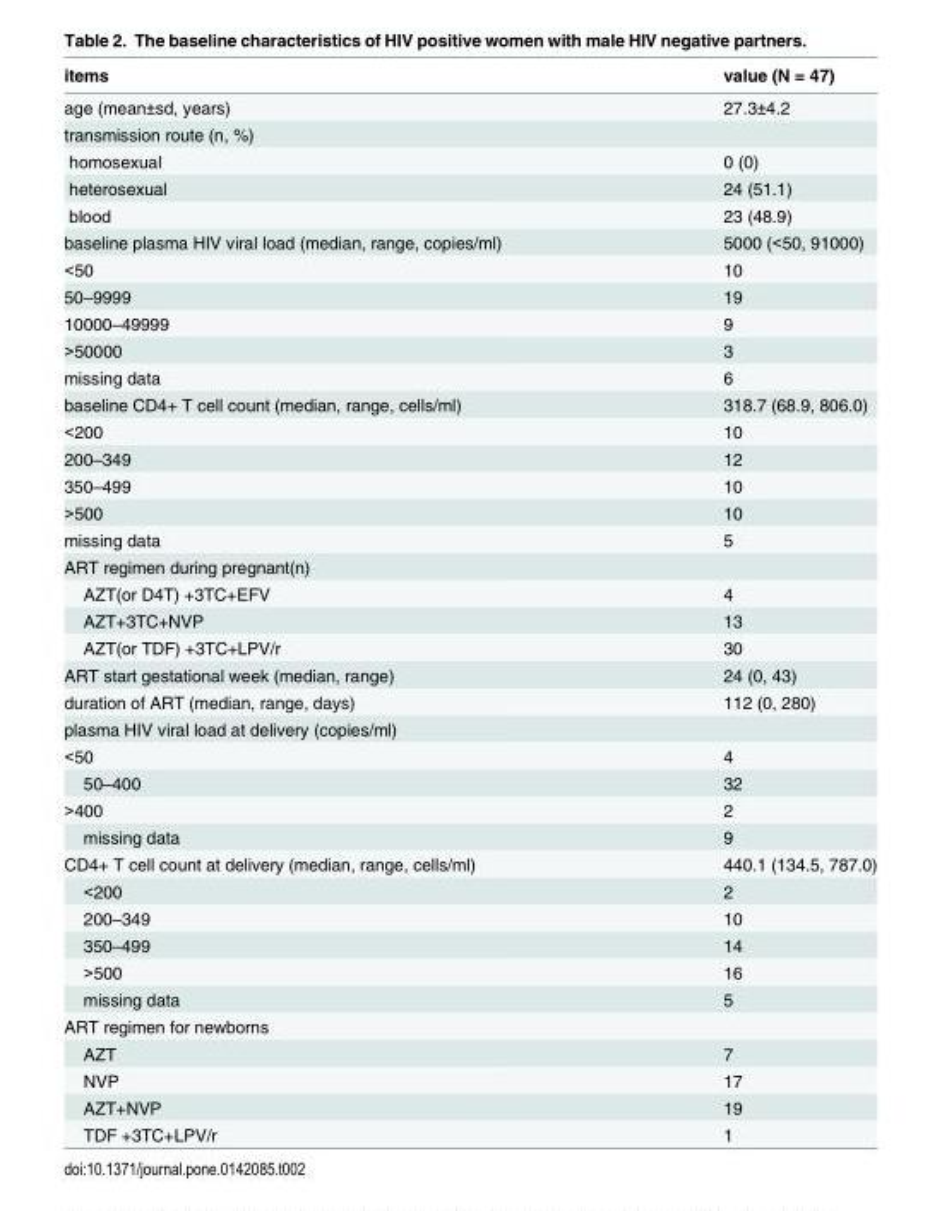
<table><thead><tr><td>items</td><td>value (N = 47)</td></tr></thead><tbody><tr><td>age (mean±sd, years)</td><td>27.3±4.2</td></tr><tr><td colspan="2">transmission route (n, %)</td></tr><tr><td>homosexual</td><td>0 (0)</td></tr><tr><td>heterosexual</td><td>24 (51.1)</td></tr><tr><td>blood</td><td>23 (48.9)</td></tr><tr><td>baseline plasma HIV viral load (median, range, copies/ml)</td><td>5000 (&lt;50, 91000)</td></tr><tr><td>&lt;50</td><td>10</td></tr><tr><td>50–9999</td><td>19</td></tr><tr><td>10000–49999</td><td>9</td></tr><tr><td>&gt;50000</td><td>3</td></tr><tr><td>missing data</td><td>6</td></tr><tr><td>baseline CD4+ T cell count (median, range, cells/ml)</td><td>318.7 (68.9, 806.0)</td></tr><tr><td>&lt;200</td><td>10</td></tr><tr><td>200–349</td><td>12</td></tr><tr><td>350–499</td><td>10</td></tr><tr><td>&gt;500</td><td>10</td></tr><tr><td>missing data</td><td>5</td></tr><tr><td colspan="2">ART regimen during pregnant(n)</td></tr><tr><td>AZT(or D4T) +3TC+EFV</td><td>4</td></tr><tr><td>AZT+3TC+NVP</td><td>13</td></tr><tr><td>AZT(or TDF) +3TC+LPV/r</td><td>30</td></tr><tr><td>ART start gestational week (median, range)</td><td>24 (0, 43)</td></tr><tr><td>duration of ART (median, range, days)</td><td>112 (0, 280)</td></tr><tr><td colspan="2">plasma HIV viral load at delivery (copies/ml)</td></tr><tr><td>&lt;50</td><td>4</td></tr><tr><td>50–400</td><td>32</td></tr><tr><td>&gt;400</td><td>2</td></tr><tr><td>missing data</td><td>9</td></tr><tr><td>CD4+ T cell count at delivery (median, range, cells/ml)</td><td>440.1 (134.5, 787.0)</td></tr><tr><td>&lt;200</td><td>2</td></tr><tr><td>200–349</td><td>10</td></tr><tr><td>350–499</td><td>14</td></tr><tr><td>&gt;500</td><td>16</td></tr><tr><td>missing data</td><td>5</td></tr><tr><td colspan="2">ART regimen for newborns</td></tr><tr><td>AZT</td><td>7</td></tr><tr><td>NVP</td><td>17</td></tr><tr><td>AZT+NVP</td><td>19</td></tr><tr><td>TDF +3TC+LPV/r</td><td>1</td></tr></tbody></table>